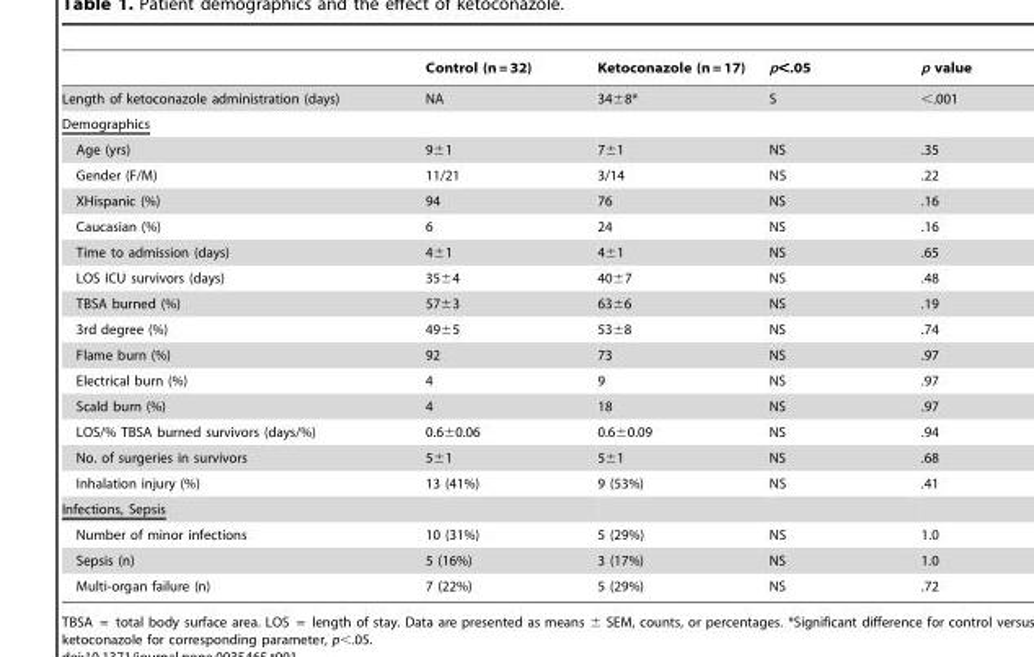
<table><thead><tr><td></td><td>Control (n = 32)</td><td>Ketoconazole (n = 17)</td><td>p&lt;.05</td><td>p value</td></tr></thead><tbody><tr><td>Length of ketoconazole administration (days)</td><td>NA</td><td>34±8*</td><td>S</td><td>&lt;.001</td></tr><tr><td colspan="5">Demographics</td></tr><tr><td>Age (yrs)</td><td>9±1</td><td>7±1</td><td>NS</td><td>.35</td></tr><tr><td>Gender (F/M)</td><td>11/21</td><td>3/14</td><td>NS</td><td>.22</td></tr><tr><td>XHispanic (%)</td><td>94</td><td>76</td><td>NS</td><td>.16</td></tr><tr><td>Caucasian (%)</td><td>6</td><td>24</td><td>NS</td><td>.16</td></tr><tr><td>Time to admission (days)</td><td>4±1</td><td>4±1</td><td>NS</td><td>.65</td></tr><tr><td>LOS ICU survivors (days)</td><td>35±4</td><td>40±7</td><td>NS</td><td>.48</td></tr><tr><td>TBSA burned (%)</td><td>57±3</td><td>63±6</td><td>NS</td><td>.19</td></tr><tr><td>3rd degree (%)</td><td>49±5</td><td>53±8</td><td>NS</td><td>.74</td></tr><tr><td>Flame burn (%)</td><td>92</td><td>73</td><td>NS</td><td>.97</td></tr><tr><td>Electrical burn (%)</td><td>4</td><td>9</td><td>NS</td><td>.97</td></tr><tr><td>Scald burn (%)</td><td>4</td><td>18</td><td>NS</td><td>.97</td></tr><tr><td>LOS/% TBSA burned survivors (days/%)</td><td>0.6±0.06</td><td>0.6±0.09</td><td>NS</td><td>.94</td></tr><tr><td>No. of surgeries in survivors</td><td>5±1</td><td>5±1</td><td>NS</td><td>.68</td></tr><tr><td>Inhalation injury (%)</td><td>13 (41%)</td><td>9 (53%)</td><td>NS</td><td>.41</td></tr><tr><td colspan="5">Infections, Sepsis</td></tr><tr><td>Number of minor infections</td><td>10 (31%)</td><td>5 (29%)</td><td>NS</td><td>1.0</td></tr><tr><td>Sepsis (n)</td><td>5 (16%)</td><td>3 (17%)</td><td>NS</td><td>1.0</td></tr><tr><td>Multi-organ failure (n)</td><td>7 (22%)</td><td>5 (29%)</td><td>NS</td><td>.72</td></tr></tbody></table>